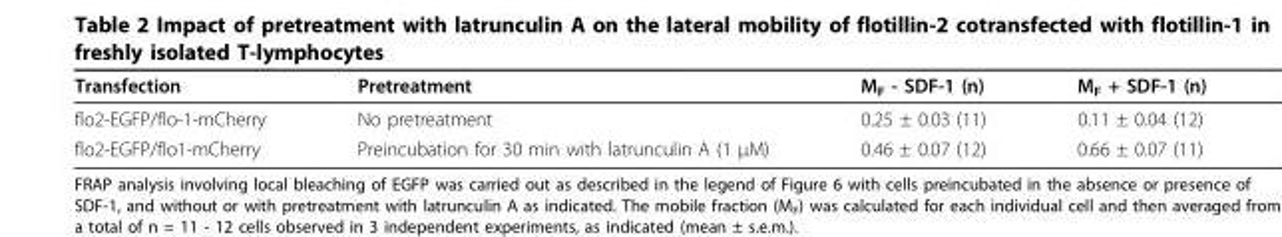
<table><thead><tr><td>Transfection</td><td>Pretreatment</td><td>M<sub>F</sub> - SDF-1 (n)</td><td>M<sub>F</sub> + SDF-1 (n)</td></tr></thead><tbody><tr><td>flo2-EGFP/flo-1-mCherry</td><td>No pretreatment</td><td>0.25 ± 0.03 (11)</td><td>0.11 ± 0.04 (12)</td></tr><tr><td>flo2-EGFP/flo1-mCherry</td><td>Preincubation for 30 min with latrunculin A (1 μM)</td><td>0.46 ± 0.07 (12)</td><td>0.66 ± 0.07 (11)</td></tr></tbody></table>